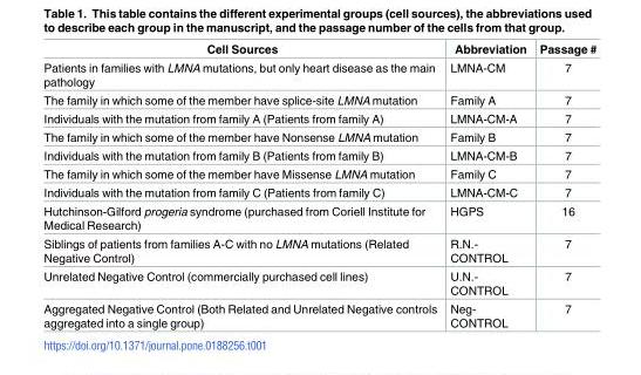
<table><thead><tr><td>Cell Sources</td><td>Abbreviation</td><td>Passage #</td></tr></thead><tbody><tr><td>Patients in families with LMNA mutations, but only heart disease as the main pathology</td><td>LMNA-CM</td><td>7</td></tr><tr><td>The family in which some of the member have splice-site LMNA mutation</td><td>Family A</td><td>7</td></tr><tr><td>Individuals with the mutation from family A (Patients from family A)</td><td>LMNA-CM-A</td><td>7</td></tr><tr><td>The family in which some of the member have Nonsense LMNA mutation</td><td>Family B</td><td>7</td></tr><tr><td>Individuals with the mutation from family B (Patients from family B)</td><td>LMNA-CM-B</td><td>7</td></tr><tr><td>The family in which some of the member have Missense LMNA mutation</td><td>Family C</td><td>7</td></tr><tr><td>Individuals with the mutation from family C (Patients from family C)</td><td>LMNA-CM-C</td><td>7</td></tr><tr><td>Hutchinson-Gilford progeria syndrome (purchased from Coriell Institute for Medical Research)</td><td>HGPS</td><td>16</td></tr><tr><td>Siblings of patients from families A-C with no LMNA mutations (Related Negative Control)</td><td>R.N.- CONTROL</td><td>7</td></tr><tr><td>Unrelated Negative Control (commercially purchased cell lines)</td><td>U.N.- CONTROL</td><td>7</td></tr><tr><td>Aggregated Negative Control (Both Related and Unrelated Negative controls aggregated into a single group)</td><td>Neg- CONTROL</td><td>7</td></tr></tbody></table>